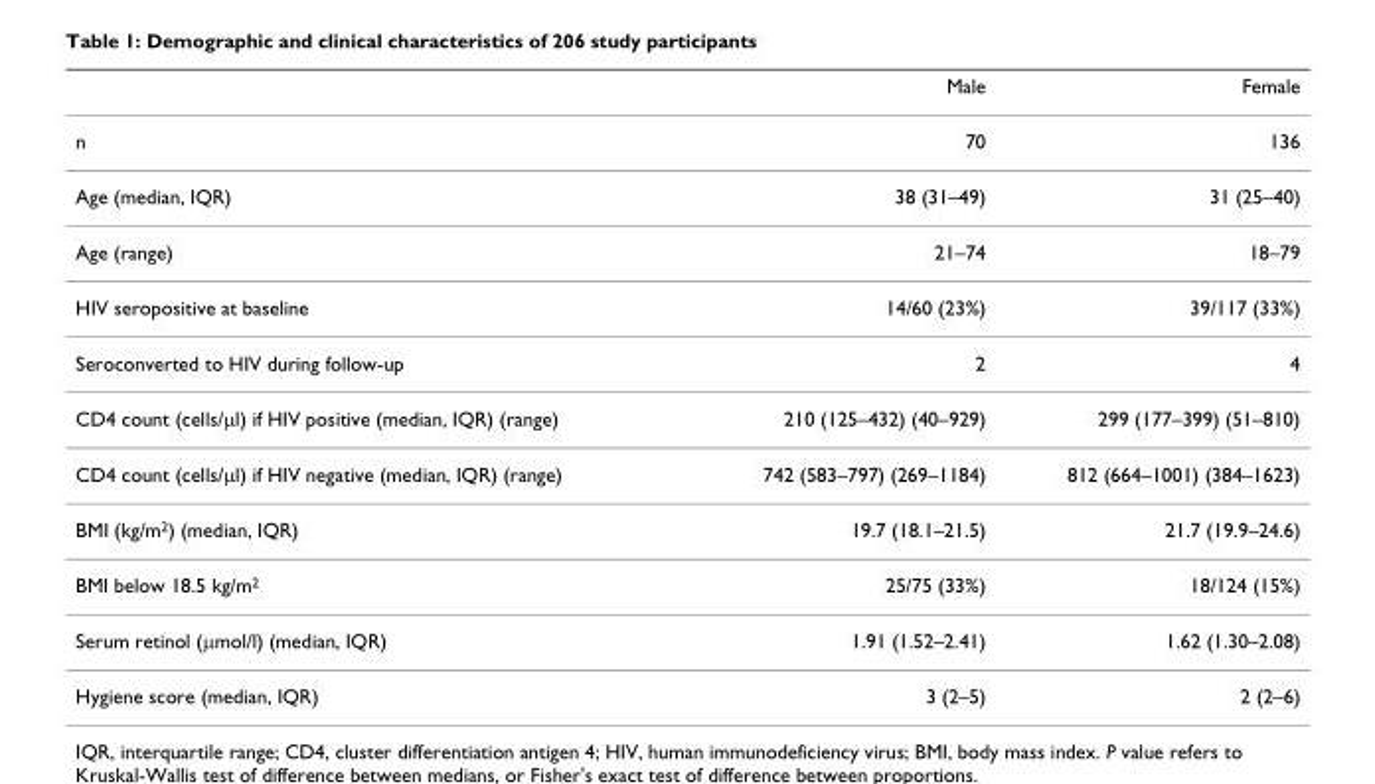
<table><thead><tr><td></td><td>Male</td><td>Female</td></tr></thead><tbody><tr><td>n</td><td>70</td><td>136</td></tr><tr><td>Age (median, IQR)</td><td>38 (31–49)</td><td>31 (25–40)</td></tr><tr><td>Age (range)</td><td>21–74</td><td>18–79</td></tr><tr><td>HIV seropositive at baseline</td><td>14/60 (23%)</td><td>39/117 (33%)</td></tr><tr><td>Seroconverted to HIV during follow-up</td><td>2</td><td>4</td></tr><tr><td>CD4 count (cells/μl) if HIV positive (median, IQR) (range)</td><td>210 (125–432) (40–929)</td><td>299 (177–399) (51–810)</td></tr><tr><td>CD4 count (cells/μl) if HIV negative (median, IQR) (range)</td><td>742 (583–797) (269–1184)</td><td>812 (664–1001) (384–1623)</td></tr><tr><td>BMI (kg/m<sup>2</sup>) (median, IQR)</td><td>19.7 (18.1–21.5)</td><td>21.7 (19.9–24.6)</td></tr><tr><td>BMI below 18.5 kg/m<sup>2</sup></td><td>25/75 (33%)</td><td>18/124 (15%)</td></tr><tr><td>Serum retinol (μmol/l) (median, IQR)</td><td>1.91 (1.52–2.41)</td><td>1.62 (1.30–2.08)</td></tr><tr><td>Hygiene score (median, IQR)</td><td>3 (2–5)</td><td>2 (2–6)</td></tr></tbody></table>